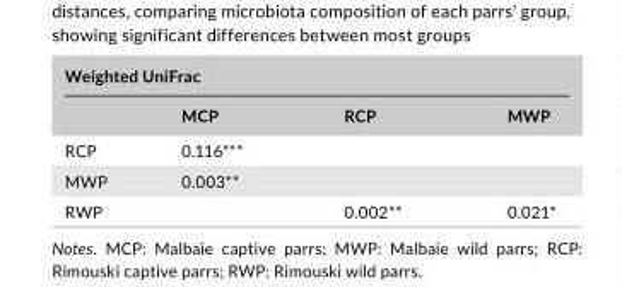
<table><thead><tr><td colspan="4">Weighted UniFrac</td></tr><tr><td></td><td>MCP</td><td>RCP</td><td>MWP</td></tr></thead><tbody><tr><td>RCP</td><td>0.116***</td><td></td><td></td></tr><tr><td>MWP</td><td>0.003**</td><td></td><td></td></tr><tr><td>RWP</td><td></td><td>0.002**</td><td>0.021*</td></tr></tbody></table>